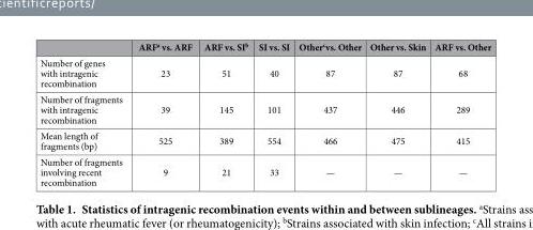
<table><thead><tr><td></td><td>ARF<sup>a</sup> vs. ARF</td><td>ARF vs. SI<sup>b</sup></td><td>SI vs. SI</td><td>Other<sup>c</sup>vs. Other</td><td>Other vs. Skin</td><td>ARF vs. Other</td></tr></thead><tbody><tr><td>Number of genes with intragenic recombination</td><td>23</td><td>51</td><td>40</td><td>87</td><td>87</td><td>68</td></tr><tr><td>Number of fragments with intragenic recombination</td><td>39</td><td>145</td><td>101</td><td>437</td><td>446</td><td>289</td></tr><tr><td>Mean length of fragments (bp)</td><td>525</td><td>389</td><td>554</td><td>466</td><td>475</td><td>415</td></tr><tr><td>Number of fragments involving recent recombination</td><td>9</td><td>21</td><td>33</td><td>—</td><td>—</td><td>—</td></tr></tbody></table>